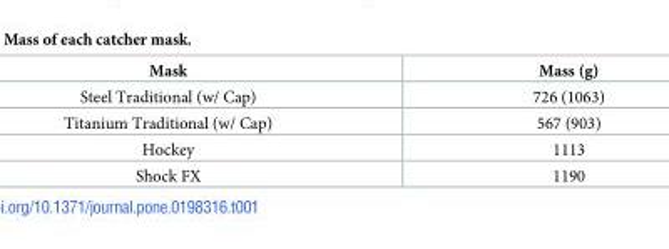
<table><thead><tr><td>Mask</td><td>Mass (g)</td></tr></thead><tbody><tr><td>Steel Traditional (w/ Cap)</td><td>726 (1063)</td></tr><tr><td>Titanium Traditional (w/ Cap)</td><td>567 (903)</td></tr><tr><td>Hockey</td><td>1113</td></tr><tr><td>Shock FX</td><td>1190</td></tr></tbody></table>